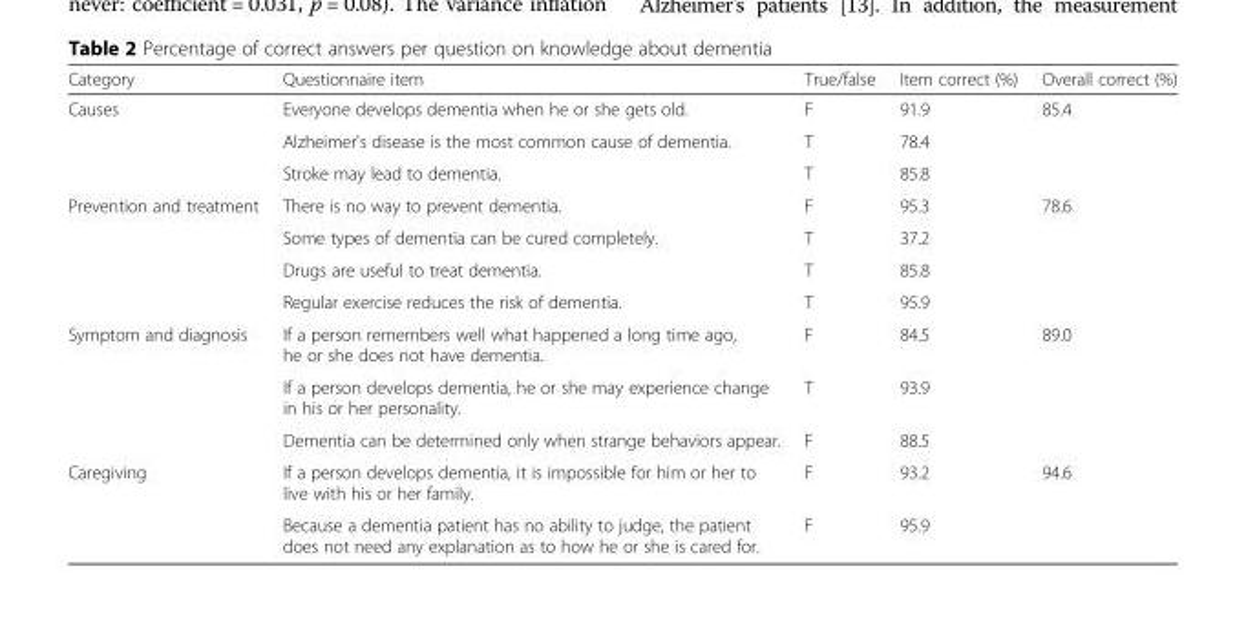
<table><thead><tr><td>Category</td><td>Questionnaire item</td><td>True/false</td><td>Item correct (%)</td><td>Overall correct (%)</td></tr></thead><tbody><tr><td rowspan="3">Causes</td><td>Everyone develops dementia when he or she gets old.</td><td>F</td><td>91.9</td><td rowspan="3">85.4</td></tr><tr><td>Alzheimer&#x27;s disease is the most common cause of dementia.</td><td>T</td><td>78.4</td></tr><tr><td>Stroke may lead to dementia.</td><td>T</td><td>85.8</td></tr><tr><td rowspan="4">Prevention and treatment</td><td>There is no way to prevent dementia.</td><td>F</td><td>95.3</td><td rowspan="4">78.6</td></tr><tr><td>Some types of dementia can be cured completely.</td><td>T</td><td>37.2</td></tr><tr><td>Drugs are useful to treat dementia.</td><td>T</td><td>85.8</td></tr><tr><td>Regular exercise reduces the risk of dementia.</td><td>T</td><td>95.9</td></tr><tr><td rowspan="3">Symptom and diagnosis</td><td>If a person remembers well what happened a long time ago, he or she does not have dementia.</td><td>F</td><td>84.5</td><td rowspan="3">89.0</td></tr><tr><td>If a person develops dementia, he or she may experience change in his or her personality.</td><td>T</td><td>93.9</td></tr><tr><td>Dementia can be determined only when strange behaviors appear.</td><td>F</td><td>88.5</td></tr><tr><td rowspan="2">Caregiving</td><td>If a person develops dementia, it is impossible for him or her to live with his or her family.</td><td>F</td><td>93.2</td><td rowspan="2">94.6</td></tr><tr><td>Because a dementia patient has no ability to judge, the patient does not need any explanation as to how he or she is cared for.</td><td>F</td><td>95.9</td></tr></tbody></table>